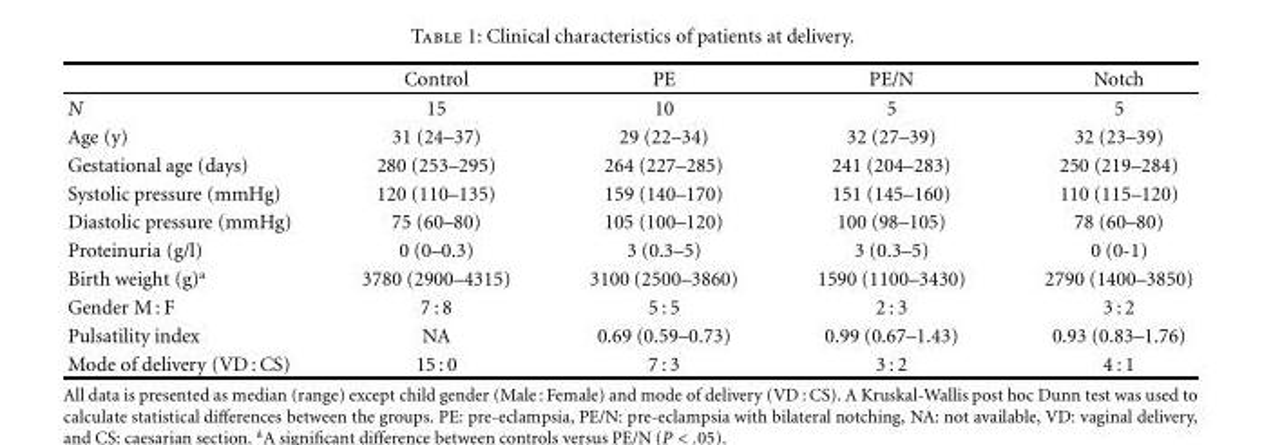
<table><thead><tr><td></td><td>Control</td><td>PE</td><td>PE/N</td><td>Notch</td></tr></thead><tbody><tr><td>N</td><td>15</td><td>10</td><td>5</td><td>5</td></tr><tr><td>Age (y)</td><td>31 (24–37)</td><td>29 (22–34)</td><td>32 (27–39)</td><td>32 (23–39)</td></tr><tr><td>Gestational age (days)</td><td>280 (253–295)</td><td>264 (227–285)</td><td>241 (204–283)</td><td>250 (219–284)</td></tr><tr><td>Systolic pressure (mmHg)</td><td>120 (110–135)</td><td>159 (140–170)</td><td>151 (145–160)</td><td>110 (115–120)</td></tr><tr><td>Diastolic pressure (mmHg)</td><td>75 (60–80)</td><td>105 (100–120)</td><td>100 (98–105)</td><td>78 (60–80)</td></tr><tr><td>Proteinuria (g/l)</td><td>0 (0–0.3)</td><td>3 (0.3–5)</td><td>3 (0.3–5)</td><td>0 (0-1)</td></tr><tr><td>Birth weight (g)<sup>a</sup></td><td>3780 (2900–4315)</td><td>3100 (2500–3860)</td><td>1590 (1100–3430)</td><td>2790 (1400–3850)</td></tr><tr><td>Gender M : F</td><td>7 : 8</td><td>5 : 5</td><td>2 : 3</td><td>3 : 2</td></tr><tr><td>Pulsatility index</td><td>NA</td><td>0.69 (0.59–0.73)</td><td>0.99 (0.67–1.43)</td><td>0.93 (0.83–1.76)</td></tr><tr><td>Mode of delivery (VD : CS)</td><td>15 : 0</td><td>7 : 3</td><td>3 : 2</td><td>4 : 1</td></tr></tbody></table>